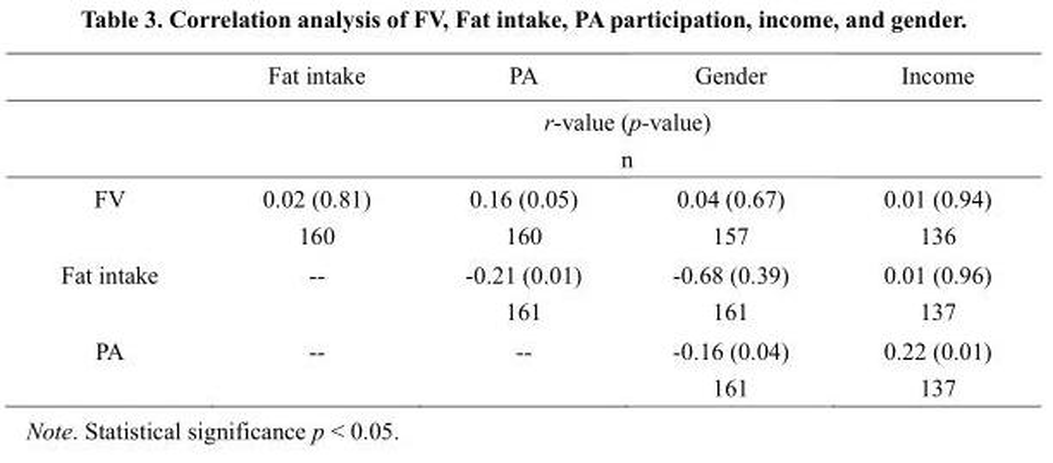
<table><thead><tr><td rowspan="2"></td><td>Fat intake</td><td>PA</td><td>Gender</td><td>Income</td></tr><tr><td colspan="4">r-value (p-value) n</td></tr></thead><tbody><tr><td>FV</td><td>0.02 (0.81) 160</td><td>0.16 (0.05) 160</td><td>0.04 (0.67) 157</td><td>0.01 (0.94) 136</td></tr><tr><td>Fat intake</td><td>--</td><td>-0.21 (0.01) 161</td><td>-0.68 (0.39) 161</td><td>0.01 (0.96) 137</td></tr><tr><td>PA</td><td>--</td><td>--</td><td>-0.16 (0.04) 161</td><td>0.22 (0.01) 137</td></tr></tbody></table>